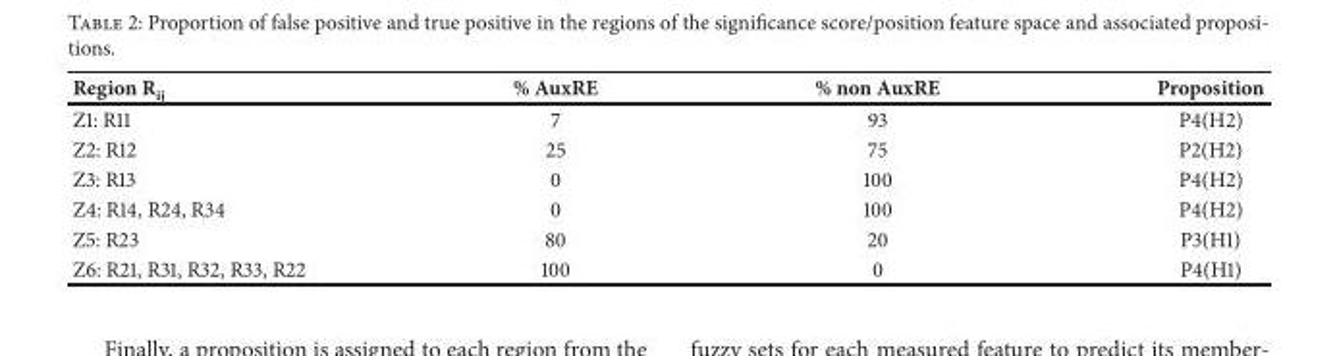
<table><thead><tr><td>Region R<sub>ij</sub></td><td>% AuxRE</td><td>% non AuxRE</td><td>Proposition</td></tr></thead><tbody><tr><td>Z1: R11</td><td>7</td><td>93</td><td>P4(H2)</td></tr><tr><td>Z2: R12</td><td>25</td><td>75</td><td>P2(H2)</td></tr><tr><td>Z3: R13</td><td>0</td><td>100</td><td>P4(H2)</td></tr><tr><td>Z4: R14, R24, R34</td><td>0</td><td>100</td><td>P4(H2)</td></tr><tr><td>Z5: R23</td><td>80</td><td>20</td><td>P3(H1)</td></tr><tr><td>Z6: R21, R31, R32, R33, R22</td><td>100</td><td>0</td><td>P4(H1)</td></tr></tbody></table>